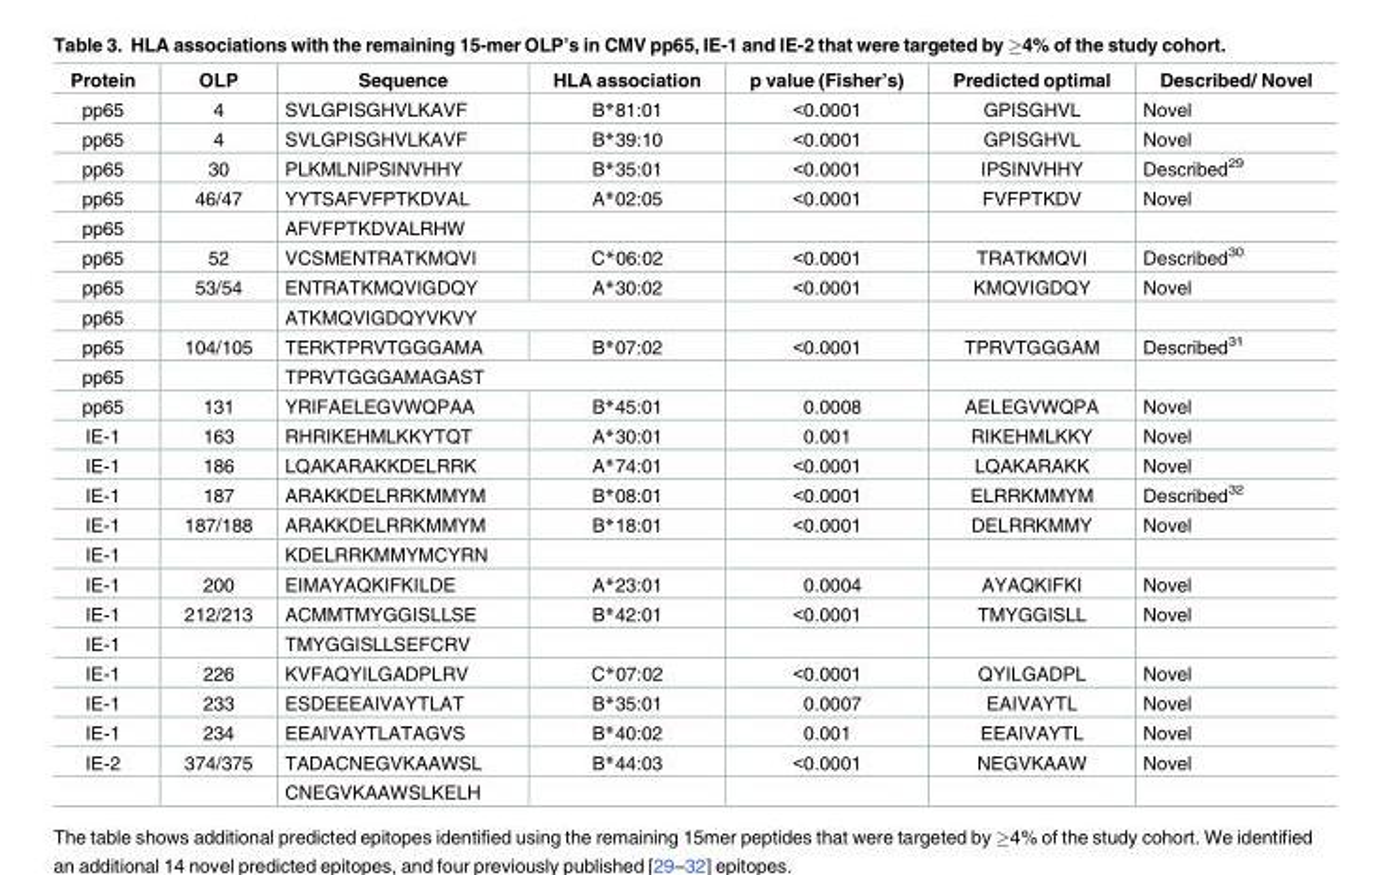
<table><thead><tr><td>Protein</td><td>OLP</td><td>Sequence</td><td>HLA association</td><td>p value (Fisher’s)</td><td>Predicted optimal</td><td>Described/ Novel</td></tr></thead><tbody><tr><td>pp65</td><td>4</td><td>SVLGPISGHVLKAVF</td><td>B*81:01</td><td>&lt;0.0001</td><td>GPISGHVL</td><td>Novel</td></tr><tr><td>pp65</td><td>4</td><td>SVLGPISGHVLKAVF</td><td>B*39:10</td><td>&lt;0.0001</td><td>GPISGHVL</td><td>Novel</td></tr><tr><td>pp65</td><td>30</td><td>PLKMLNIPSINVHHY</td><td>B*35:01</td><td>&lt;0.0001</td><td>IPSINVHHY</td><td>Described<sup>29</sup></td></tr><tr><td>pp65</td><td>46/47</td><td>YYTSAFVFPTKDVAL</td><td>A*02:05</td><td>&lt;0.0001</td><td>FVFPTKDV</td><td>Novel</td></tr><tr><td>pp65</td><td></td><td>AFVFPTKDVALRHW</td><td></td><td></td><td></td><td></td></tr><tr><td>pp65</td><td>52</td><td>VCSMENTRATKMQVI</td><td>C*06:02</td><td>&lt;0.0001</td><td>TRATKMQVI</td><td>Described<sup>30</sup></td></tr><tr><td>pp65</td><td>53/54</td><td>ENTRATKMQVIGDQY</td><td>A*30:02</td><td>&lt;0.0001</td><td>KMQVIGDQY</td><td>Novel</td></tr><tr><td>pp65</td><td></td><td colspan="2">ATKMQVIGDQYVKVY</td><td></td><td></td><td></td></tr><tr><td>pp65</td><td>104/105</td><td>TERKTPRVTGGGAMA</td><td>B*07:02</td><td>&lt;0.0001</td><td>TPRVTGGGAM</td><td>Described<sup>31</sup></td></tr><tr><td>pp65</td><td></td><td colspan="2">TPRVTGGGAMAGAST</td><td></td><td></td><td></td></tr><tr><td>pp65</td><td>131</td><td>YRIFAELEGVWQPAA</td><td>B*45:01</td><td>0.0008</td><td>AELEGVWQPA</td><td>Novel</td></tr><tr><td>IE-1</td><td>163</td><td>RHRIKEHMLKKYTQT</td><td>A*30:01</td><td>0.001</td><td>RIKEHMLKKY</td><td>Novel</td></tr><tr><td>IE-1</td><td>186</td><td>LQAKARAKKDELRRK</td><td>A*74:01</td><td>&lt;0.0001</td><td>LQAKARAKK</td><td>Novel</td></tr><tr><td>IE-1</td><td>187</td><td>ARAKKDELRRKMMYM</td><td>B*08:01</td><td>&lt;0.0001</td><td>ELRRKMMYM</td><td>Described<sup>32</sup></td></tr><tr><td>IE-1</td><td>187/188</td><td>ARAKKDELRRKMMYM</td><td>B*18:01</td><td>&lt;0.0001</td><td>DELRRKMMY</td><td>Novel</td></tr><tr><td>IE-1</td><td></td><td>KDELRRKMMYMCYRN</td><td></td><td></td><td></td><td></td></tr><tr><td>IE-1</td><td>200</td><td>EIMAYAQKIFKILDE</td><td>A*23:01</td><td>0.0004</td><td>AYAQKIFKI</td><td>Novel</td></tr><tr><td>IE-1</td><td>212/213</td><td>ACMMTMYGGISLLSE</td><td>B*42:01</td><td>&lt;0.0001</td><td>TMYGGISLL</td><td>Novel</td></tr><tr><td>IE-1</td><td></td><td>TMYGGISLLSEFCRV</td><td></td><td></td><td></td><td></td></tr><tr><td>IE-1</td><td>226</td><td>KVFAQYILGADPLRV</td><td>C*07:02</td><td>&lt;0.0001</td><td>QYILGADPL</td><td>Novel</td></tr><tr><td>IE-1</td><td>233</td><td>ESDEEEAIVAYTLAT</td><td>B*35:01</td><td>0.0007</td><td>EAIVAYTL</td><td>Novel</td></tr><tr><td>IE-1</td><td>234</td><td>EEAIVAYTLATAGVS</td><td>B*40:02</td><td>0.001</td><td>EEAIVAYTL</td><td>Novel</td></tr><tr><td rowspan="2">IE-2</td><td>374/375</td><td>TADACNEGVKAAWSL</td><td>B*44:03</td><td>&lt;0.0001</td><td>NEGVKAAW</td><td>Novel</td></tr><tr><td></td><td>CNEGVKAAWSLKELH</td><td></td><td></td><td></td><td></td></tr></tbody></table>